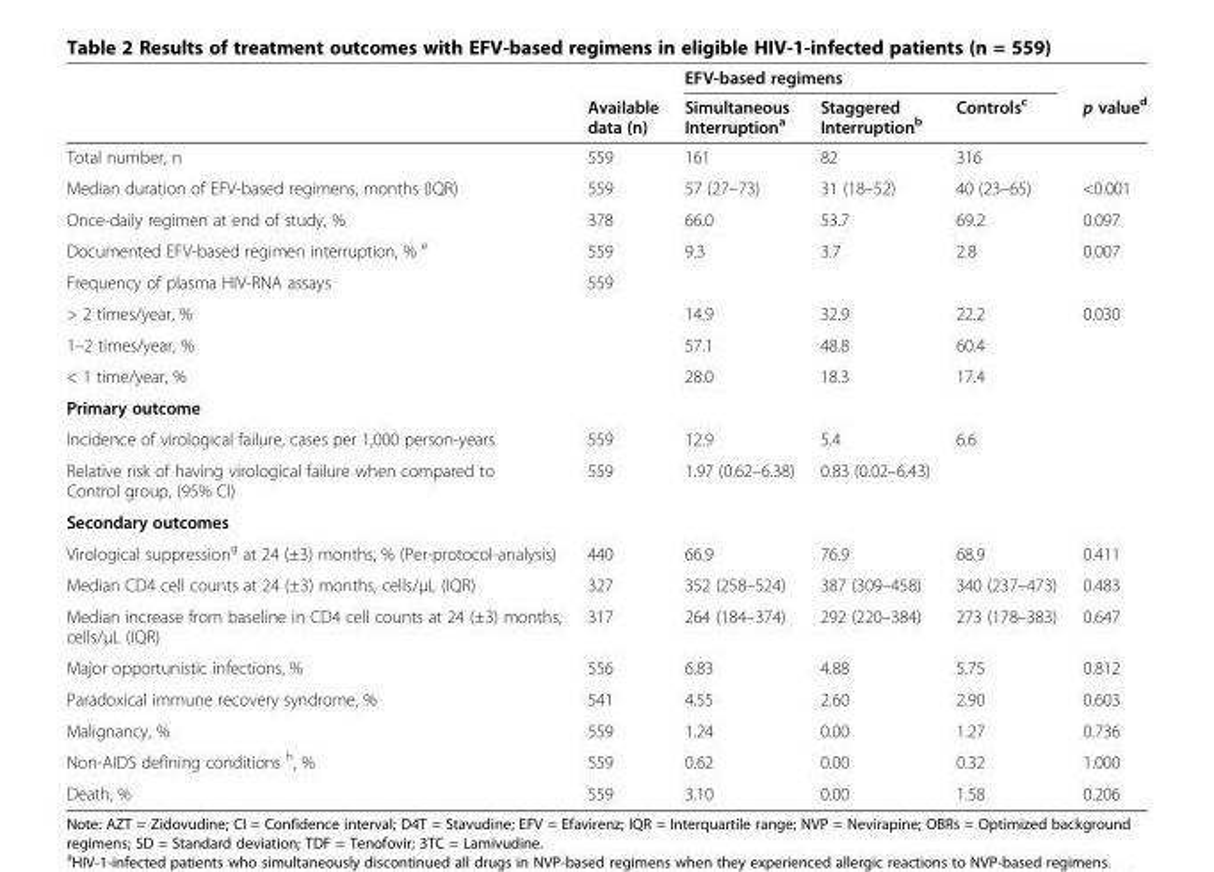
<table><thead><tr><td rowspan="2"></td><td rowspan="2">Available data (n)</td><td colspan="3">EFV-based regimens</td><td rowspan="2">p value<sup>d</sup></td></tr><tr><td>Simultaneous Interruption<sup>a</sup></td><td>Staggered Interruption<sup>b</sup></td><td>Controls<sup>c</sup></td></tr></thead><tbody><tr><td>Total number, n</td><td>559</td><td>161</td><td>82</td><td>316</td><td></td></tr><tr><td>Median duration of EFV-based regimens, months (IQR)</td><td>559</td><td>57 (27–73)</td><td>31 (18–52)</td><td>40 (23–65)</td><td>&lt;0.001</td></tr><tr><td>Once-daily regimen at end of study, %</td><td>378</td><td>66.0</td><td>53.7</td><td>69.2</td><td>0.097</td></tr><tr><td>Documented EFV-based regimen interruption, % <sup>e</sup></td><td>559</td><td>9.3</td><td>3.7</td><td>2.8</td><td>0.007</td></tr><tr><td>Frequency of plasma HIV-RNA assays</td><td>559</td><td></td><td></td><td></td><td></td></tr><tr><td>&gt; 2 times/year, %</td><td></td><td>14.9</td><td>32.9</td><td>22.2</td><td>0.030</td></tr><tr><td>1–2 times/year, %</td><td></td><td>57.1</td><td>48.8</td><td>60.4</td><td></td></tr><tr><td>&lt; 1 time/year, %</td><td></td><td>28.0</td><td>18.3</td><td>17.4</td><td></td></tr><tr><td colspan="6">Primary outcome</td></tr><tr><td>Incidence of virological failure, cases per 1,000 person-years</td><td>559</td><td>12.9</td><td>5.4</td><td>6.6</td><td></td></tr><tr><td>Relative risk of having virological failure when compared to Control group, (95% CI)</td><td>559</td><td>1.97 (0.62–6.38)</td><td>0.83 (0.02–6.43)</td><td></td><td></td></tr><tr><td colspan="6">Secondary outcomes</td></tr><tr><td>Virological suppression<sup>g</sup> at 24 (±3) months, % (Per-protocol-analysis)</td><td>440</td><td>66.9</td><td>76.9</td><td>68.9</td><td>0.411</td></tr><tr><td>Median CD4 cell counts at 24 (±3) months, cells/μL (IQR)</td><td>327</td><td>352 (258–524)</td><td>387 (309–458)</td><td>340 (237–473)</td><td>0.483</td></tr><tr><td>Median increase from baseline in CD4 cell counts at 24 (±3) months, cells/μL (IQR)</td><td>317</td><td>264 (184–374)</td><td>292 (220–384)</td><td>273 (178–383)</td><td>0.647</td></tr><tr><td>Major opportunistic infections, %</td><td>556</td><td>6.83</td><td>4.88</td><td>5.75</td><td>0.812</td></tr><tr><td>Paradoxical immune recovery syndrome, %</td><td>541</td><td>4.55</td><td>2.60</td><td>2.90</td><td>0.603</td></tr><tr><td>Malignancy, %</td><td>559</td><td>1.24</td><td>0.00</td><td>1.27</td><td>0.736</td></tr><tr><td>Non-AIDS defining conditions <sup>h</sup>, %</td><td>559</td><td>0.62</td><td>0.00</td><td>0.32</td><td>1.000</td></tr><tr><td>Death, %</td><td>559</td><td>3.10</td><td>0.00</td><td>1.58</td><td>0.206</td></tr></tbody></table>